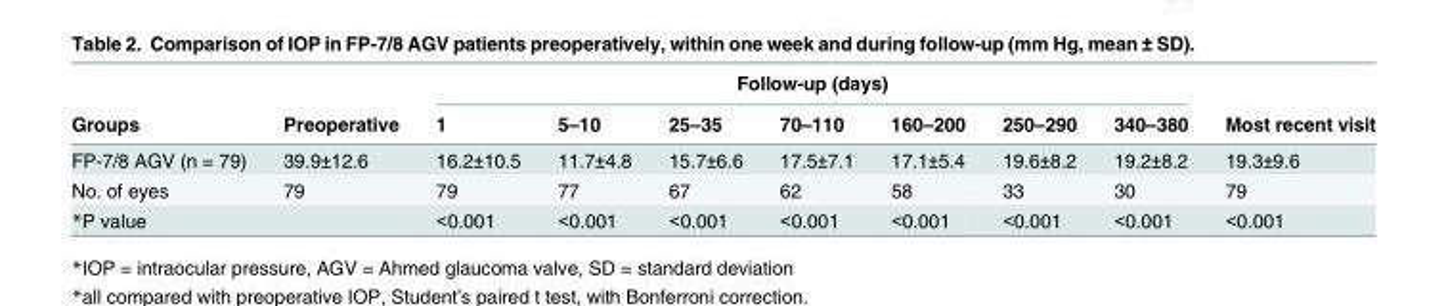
<table><thead><tr><td rowspan="2">Groups</td><td rowspan="2">Preoperative</td><td colspan="7">Follow-up (days)</td><td rowspan="2">Most recent visit</td></tr><tr><td>1</td><td>5–10</td><td>25–35</td><td>70–110</td><td>160–200</td><td>250–290</td><td>340–380</td></tr></thead><tbody><tr><td>FP-7/8 AGV (n = 79)</td><td>39.9±12.6</td><td>16.2±10.5</td><td>11.7±4.8</td><td>15.7±6.6</td><td>17.5±7.1</td><td>17.1±5.4</td><td>19.6±8.2</td><td>19.2±8.2</td><td>19.3±9.6</td></tr><tr><td>No. of eyes</td><td>79</td><td>79</td><td>77</td><td>67</td><td>62</td><td>58</td><td>33</td><td>30</td><td>79</td></tr><tr><td>*P value</td><td></td><td>&lt;0.001</td><td>&lt;0.001</td><td>&lt;0.001</td><td>&lt;0.001</td><td>&lt;0.001</td><td>&lt;0.001</td><td>&lt;0.001</td><td>&lt;0.001</td></tr></tbody></table>